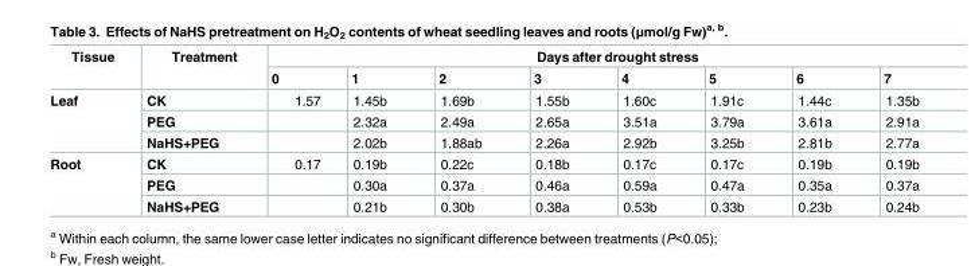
<table><thead><tr><td rowspan="2">Tissue</td><td rowspan="2">Treatment</td><td colspan="8">Days after drought stress</td></tr><tr><td>0</td><td>1</td><td>2</td><td>3</td><td>4</td><td>5</td><td>6</td><td>7</td></tr></thead><tbody><tr><td rowspan="3">Leaf</td><td>CK</td><td>1.57</td><td>1.45b</td><td>1.69b</td><td>1.55b</td><td>1.60c</td><td>1.91c</td><td>1.44c</td><td>1.35b</td></tr><tr><td>PEG</td><td></td><td>2.32a</td><td>2.49a</td><td>2.65a</td><td>3.51a</td><td>3.79a</td><td>3.61a</td><td>2.91a</td></tr><tr><td>NaHS+PEG</td><td></td><td>2.02b</td><td>1.88ab</td><td>2.26a</td><td>2.92b</td><td>3.25b</td><td>2.81b</td><td>2.77a</td></tr><tr><td rowspan="3">Root</td><td>CK</td><td>0.17</td><td>0.19b</td><td>0.22c</td><td>0.18b</td><td>0.17c</td><td>0.17c</td><td>0.19b</td><td>0.19b</td></tr><tr><td>PEG</td><td></td><td>0.30a</td><td>0.37a</td><td>0.46a</td><td>0.59a</td><td>0.47a</td><td>0.35a</td><td>0.37a</td></tr><tr><td>NaHS+PEG</td><td></td><td>0.21b</td><td>0.30b</td><td>0.38a</td><td>0.53b</td><td>0.33b</td><td>0.23b</td><td>0.24b</td></tr></tbody></table>